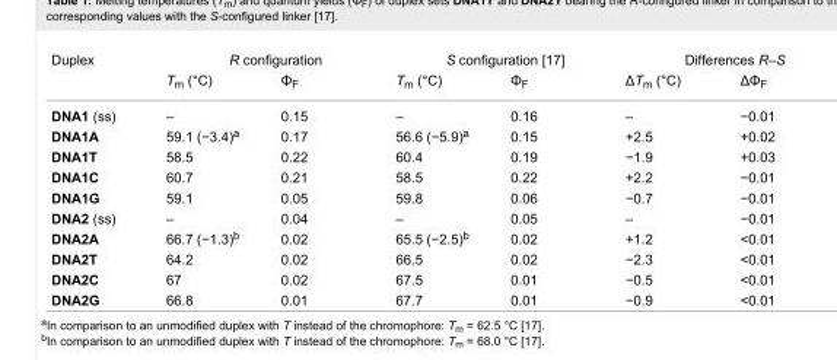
<table><tbody><tr><td rowspan="2">Duplex</td><td colspan="2">R configuration</td><td colspan="2">S configuration [17]</td><td colspan="2">Differences R–S</td></tr><tr><td>T<sub>m</sub> (°C)</td><td>Φ<sub>F</sub></td><td>T<sub>m</sub> (°C)</td><td>Φ<sub>F</sub></td><td>ΔT<sub>m</sub> (°C)</td><td>ΔΦ<sub>F</sub></td></tr><tr><td>DNA1 (ss)</td><td>–</td><td>0.15</td><td>–</td><td>0.16</td><td>–</td><td>−0.01</td></tr><tr><td>DNA1A</td><td>59.1 (−3.4)<sup>a</sup></td><td>0.17</td><td>56.6 (−5.9)<sup>a</sup></td><td>0.15</td><td>+2.5</td><td>+0.02</td></tr><tr><td>DNA1T</td><td>58.5</td><td>0.22</td><td>60.4</td><td>0.19</td><td>−1.9</td><td>+0.03</td></tr><tr><td>DNA1C</td><td>60.7</td><td>0.21</td><td>58.5</td><td>0.22</td><td>+2.2</td><td>−0.01</td></tr><tr><td>DNA1G</td><td>59.1</td><td>0.05</td><td>59.8</td><td>0.06</td><td>−0.7</td><td>−0.01</td></tr><tr><td>DNA2 (ss)</td><td>–</td><td>0.04</td><td>–</td><td>0.05</td><td>–</td><td>−0.01</td></tr><tr><td>DNA2A</td><td>66.7 (−1.3)<sup>b</sup></td><td>0.02</td><td>65.5 (−2.5)<sup>b</sup></td><td>0.02</td><td>+1.2</td><td>&lt;0.01</td></tr><tr><td>DNA2T</td><td>64.2</td><td>0.02</td><td>66.5</td><td>0.02</td><td>−2.3</td><td>&lt;0.01</td></tr><tr><td>DNA2C</td><td>67</td><td>0.02</td><td>67.5</td><td>0.01</td><td>−0.5</td><td>&lt;0.01</td></tr><tr><td>DNA2G</td><td>66.8</td><td>0.01</td><td>67.7</td><td>0.01</td><td>−0.9</td><td>&lt;0.01</td></tr></tbody></table>